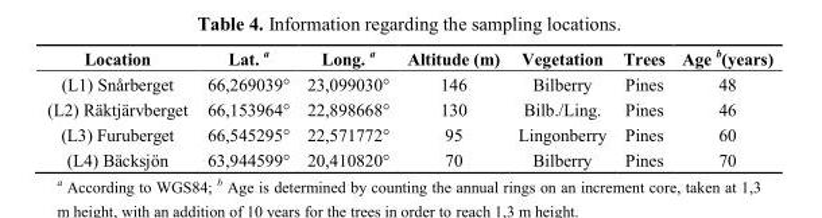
<table><thead><tr><td>Location</td><td>Lat. <sup>a</sup></td><td>Long. <sup>a</sup></td><td>Altitude (m)</td><td>Vegetation</td><td>Trees</td><td>Age <sup>b</sup>(years)</td></tr></thead><tbody><tr><td>(L1) Snårberget</td><td>66,269039°</td><td>23,099030°</td><td>146</td><td>Bilberry</td><td>Pines</td><td>48</td></tr><tr><td>(L2) Räktjärvberget</td><td>66,153964°</td><td>22,898668°</td><td>130</td><td>Bilb./Ling.</td><td>Pines</td><td>46</td></tr><tr><td>(L3) Furuberget</td><td>66,545295°</td><td>22,571772°</td><td>95</td><td>Lingonberry</td><td>Pines</td><td>60</td></tr><tr><td>(L4) Bäcksjön</td><td>63,944599°</td><td>20,410820°</td><td>70</td><td>Bilberry</td><td>Pines</td><td>70</td></tr></tbody></table>